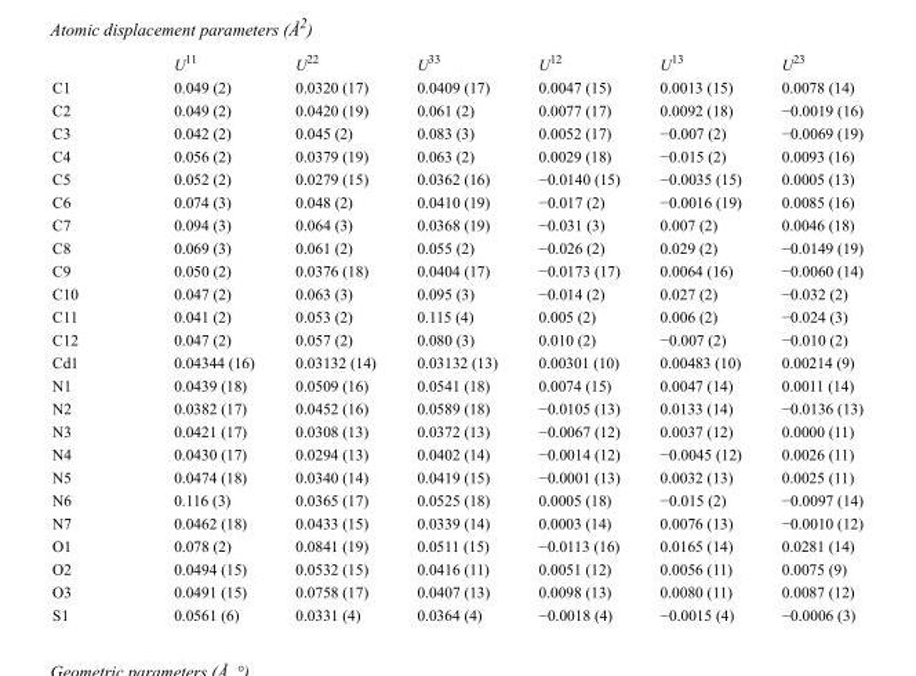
<table><thead><tr><td></td><td>U<sup>11</sup></td><td>U<sup>22</sup></td><td>U<sup>33</sup></td><td>U<sup>12</sup></td><td>U<sup>13</sup></td><td>U<sup>23</sup></td></tr></thead><tbody><tr><td>C1</td><td>0.049 (2)</td><td>0.0320 (17)</td><td>0.0409 (17)</td><td>0.0047 (15)</td><td>0.0013 (15)</td><td>0.0078 (14)</td></tr><tr><td>C2</td><td>0.049 (2)</td><td>0.0420 (19)</td><td>0.061 (2)</td><td>0.0077 (17)</td><td>0.0092 (18)</td><td>−0.0019 (16)</td></tr><tr><td>C3</td><td>0.042 (2)</td><td>0.045 (2)</td><td>0.083 (3)</td><td>0.0052 (17)</td><td>−0.007 (2)</td><td>−0.0069 (19)</td></tr><tr><td>C4</td><td>0.056 (2)</td><td>0.0379 (19)</td><td>0.063 (2)</td><td>0.0029 (18)</td><td>−0.015 (2)</td><td>0.0093 (16)</td></tr><tr><td>C5</td><td>0.052 (2)</td><td>0.0279 (15)</td><td>0.0362 (16)</td><td>−0.0140 (15)</td><td>−0.0035 (15)</td><td>0.0005 (13)</td></tr><tr><td>C6</td><td>0.074 (3)</td><td>0.048 (2)</td><td>0.0410 (19)</td><td>−0.017 (2)</td><td>−0.0016 (19)</td><td>0.0085 (16)</td></tr><tr><td>C7</td><td>0.094 (3)</td><td>0.064 (3)</td><td>0.0368 (19)</td><td>−0.031 (3)</td><td>0.007 (2)</td><td>0.0046 (18)</td></tr><tr><td>C8</td><td>0.069 (3)</td><td>0.061 (2)</td><td>0.055 (2)</td><td>−0.026 (2)</td><td>0.029 (2)</td><td>−0.0149 (19)</td></tr><tr><td>C9</td><td>0.050 (2)</td><td>0.0376 (18)</td><td>0.0404 (17)</td><td>−0.0173 (17)</td><td>0.0064 (16)</td><td>−0.0060 (14)</td></tr><tr><td>C10</td><td>0.047 (2)</td><td>0.063 (3)</td><td>0.095 (3)</td><td>−0.014 (2)</td><td>0.027 (2)</td><td>−0.032 (2)</td></tr><tr><td>C11</td><td>0.041 (2)</td><td>0.053 (2)</td><td>0.115 (4)</td><td>0.005 (2)</td><td>0.006 (2)</td><td>−0.024 (3)</td></tr><tr><td>C12</td><td>0.047 (2)</td><td>0.057 (2)</td><td>0.080 (3)</td><td>0.010 (2)</td><td>−0.007 (2)</td><td>−0.010 (2)</td></tr><tr><td>Cd1</td><td>0.04344 (16)</td><td>0.03132 (14)</td><td>0.03132 (13)</td><td>0.00301 (10)</td><td>0.00483 (10)</td><td>0.00214 (9)</td></tr><tr><td>N1</td><td>0.0439 (18)</td><td>0.0509 (16)</td><td>0.0541 (18)</td><td>0.0074 (15)</td><td>0.0047 (14)</td><td>0.0011 (14)</td></tr><tr><td>N2</td><td>0.0382 (17)</td><td>0.0452 (16)</td><td>0.0589 (18)</td><td>−0.0105 (13)</td><td>0.0133 (14)</td><td>−0.0136 (13)</td></tr><tr><td>N3</td><td>0.0421 (17)</td><td>0.0308 (13)</td><td>0.0372 (13)</td><td>−0.0067 (12)</td><td>0.0037 (12)</td><td>0.0000 (11)</td></tr><tr><td>N4</td><td>0.0430 (17)</td><td>0.0294 (13)</td><td>0.0402 (14)</td><td>−0.0014 (12)</td><td>−0.0045 (12)</td><td>0.0026 (11)</td></tr><tr><td>N5</td><td>0.0474 (18)</td><td>0.0340 (14)</td><td>0.0419 (15)</td><td>−0.0001 (13)</td><td>0.0032 (13)</td><td>0.0025 (11)</td></tr><tr><td>N6</td><td>0.116 (3)</td><td>0.0365 (17)</td><td>0.0525 (18)</td><td>0.0005 (18)</td><td>−0.015 (2)</td><td>−0.0097 (14)</td></tr><tr><td>N7</td><td>0.0462 (18)</td><td>0.0433 (15)</td><td>0.0339 (14)</td><td>0.0003 (14)</td><td>0.0076 (13)</td><td>−0.0010 (12)</td></tr><tr><td>O1</td><td>0.078 (2)</td><td>0.0841 (19)</td><td>0.0511 (15)</td><td>−0.0113 (16)</td><td>0.0165 (14)</td><td>0.0281 (14)</td></tr><tr><td>O2</td><td>0.0494 (15)</td><td>0.0532 (15)</td><td>0.0416 (11)</td><td>0.0051 (12)</td><td>0.0056 (11)</td><td>0.0075 (9)</td></tr><tr><td>O3</td><td>0.0491 (15)</td><td>0.0758 (17)</td><td>0.0407 (13)</td><td>0.0098 (13)</td><td>0.0080 (11)</td><td>0.0087 (12)</td></tr><tr><td>S1</td><td>0.0561 (6)</td><td>0.0331 (4)</td><td>0.0364 (4)</td><td>−0.0018 (4)</td><td>−0.0015 (4)</td><td>−0.0006 (3)</td></tr></tbody></table>